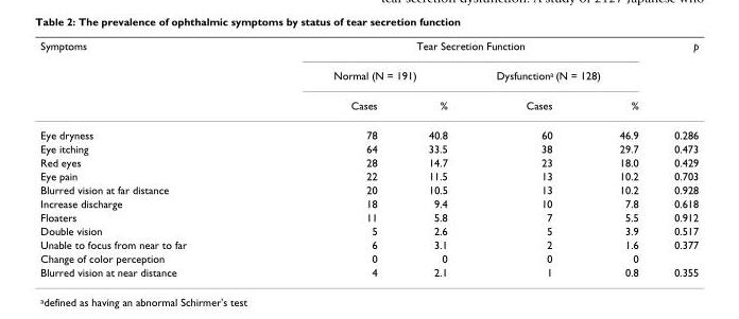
<table><thead><tr><td rowspan="3">Symptoms</td><td colspan="4">Tear Secretion Function</td><td rowspan="3">p</td></tr><tr><td colspan="2">Normal (N = 191)</td><td colspan="2">Dysfunctiona (N = 128)</td></tr><tr><td>Cases</td><td>%</td><td>Cases</td><td>%</td></tr></thead><tbody><tr><td>Eye dryness</td><td>78</td><td>40.8</td><td>60</td><td>46.9</td><td>0.286</td></tr><tr><td>Eye itching</td><td>64</td><td>33.5</td><td>38</td><td>29.7</td><td>0.473</td></tr><tr><td>Red eyes</td><td>28</td><td>14.7</td><td>23</td><td>18.0</td><td>0.429</td></tr><tr><td>Eye pain</td><td>22</td><td>11.5</td><td>13</td><td>10.2</td><td>0.703</td></tr><tr><td>Blurred vision at far distance</td><td>20</td><td>10.5</td><td>13</td><td>10.2</td><td>0.928</td></tr><tr><td>Increase discharge</td><td>18</td><td>9.4</td><td>10</td><td>7.8</td><td>0.618</td></tr><tr><td>Floaters</td><td>11</td><td>5.8</td><td>7</td><td>5.5</td><td>0.912</td></tr><tr><td>Double vision</td><td>5</td><td>2.6</td><td>5</td><td>3.9</td><td>0.517</td></tr><tr><td>Unable to focus from near to far</td><td>6</td><td>3.1</td><td>2</td><td>1.6</td><td>0.377</td></tr><tr><td>Change of color perception</td><td>0</td><td>0</td><td>0</td><td>0</td><td></td></tr><tr><td>Blurred vision at near distance</td><td>4</td><td>2.1</td><td>1</td><td>0.8</td><td>0.355</td></tr></tbody></table>